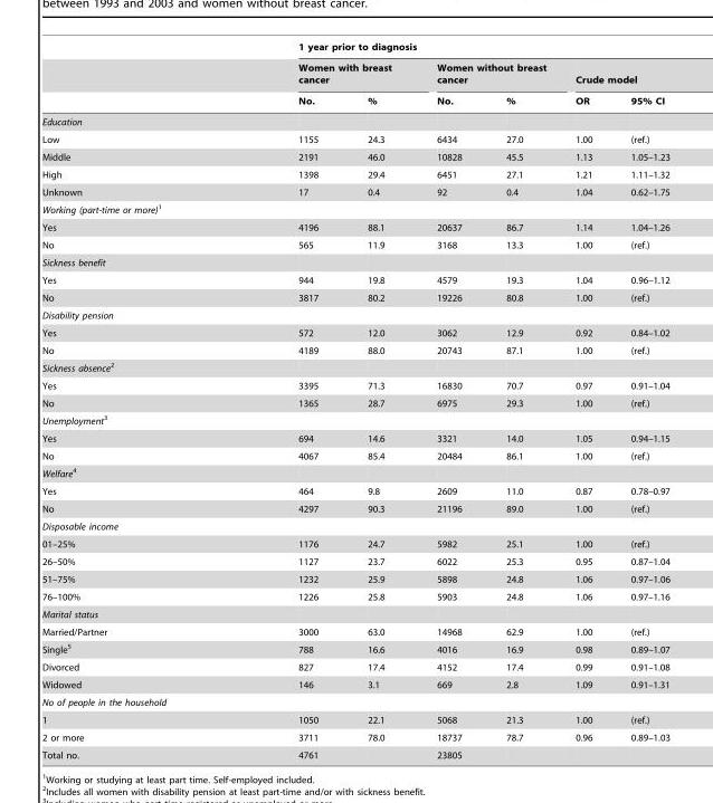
<table><thead><tr><td rowspan="3"></td><td colspan="6">1 year prior to diagnosis</td></tr><tr><td colspan="2">Women with breast cancer</td><td colspan="2">Women without breast cancer</td><td colspan="2">Crude model</td></tr><tr><td>No.</td><td>%</td><td>No.</td><td>%</td><td>OR</td><td>95% CI</td></tr></thead><tbody><tr><td colspan="7">Education</td></tr><tr><td>Low</td><td>1155</td><td>24.3</td><td>6434</td><td>27.0</td><td>1.00</td><td>(ref.)</td></tr><tr><td>Middle</td><td>2191</td><td>46.0</td><td>10828</td><td>45.5</td><td>1.13</td><td>1.05–1.23</td></tr><tr><td>High</td><td>1398</td><td>29.4</td><td>6451</td><td>27.1</td><td>1.21</td><td>1.11–1.32</td></tr><tr><td>Unknown</td><td>17</td><td>0.4</td><td>92</td><td>0.4</td><td>1.04</td><td>0.62–1.75</td></tr><tr><td colspan="7">Working (part-time or more)1</td></tr><tr><td>Yes</td><td>4196</td><td>88.1</td><td>20637</td><td>86.7</td><td>1.14</td><td>1.04–1.26</td></tr><tr><td>No</td><td>565</td><td>11.9</td><td>3168</td><td>13.3</td><td>1.00</td><td>(ref.)</td></tr><tr><td colspan="7">Sickness benefit</td></tr><tr><td>Yes</td><td>944</td><td>19.8</td><td>4579</td><td>19.3</td><td>1.04</td><td>0.96–1.12</td></tr><tr><td>No</td><td>3817</td><td>80.2</td><td>19226</td><td>80.8</td><td>1.00</td><td>(ref.)</td></tr><tr><td colspan="7">Disability pension</td></tr><tr><td>Yes</td><td>572</td><td>12.0</td><td>3062</td><td>12.9</td><td>0.92</td><td>0.84–1.02</td></tr><tr><td>No</td><td>4189</td><td>88.0</td><td>20743</td><td>87.1</td><td>1.00</td><td>(ref.)</td></tr><tr><td colspan="7">Sickness absence2</td></tr><tr><td>Yes</td><td>3395</td><td>71.3</td><td>16830</td><td>70.7</td><td>0.97</td><td>0.91–1.04</td></tr><tr><td>No</td><td>1365</td><td>28.7</td><td>6975</td><td>29.3</td><td>1.00</td><td>(ref.)</td></tr><tr><td colspan="7">Unemployment3</td></tr><tr><td>Yes</td><td>694</td><td>14.6</td><td>3321</td><td>14.0</td><td>1.05</td><td>0.94–1.15</td></tr><tr><td>No</td><td>4067</td><td>85.4</td><td>20484</td><td>86.1</td><td>1.00</td><td>(ref.)</td></tr><tr><td colspan="7">Welfare4</td></tr><tr><td>Yes</td><td>464</td><td>9.8</td><td>2609</td><td>11.0</td><td>0.87</td><td>0.78–0.97</td></tr><tr><td>No</td><td>4297</td><td>90.3</td><td>21196</td><td>89.0</td><td>1.00</td><td>(ref.)</td></tr><tr><td colspan="7">Disposable income</td></tr><tr><td>01–25%</td><td>1176</td><td>24.7</td><td>5982</td><td>25.1</td><td>1.00</td><td>(ref.)</td></tr><tr><td>26–50%</td><td>1127</td><td>23.7</td><td>6022</td><td>25.3</td><td>0.95</td><td>0.87–1.04</td></tr><tr><td>51–75%</td><td>1232</td><td>25.9</td><td>5898</td><td>24.8</td><td>1.06</td><td>0.97–1.06</td></tr><tr><td>76–100%</td><td>1226</td><td>25.8</td><td>5903</td><td>24.8</td><td>1.06</td><td>0.97–1.16</td></tr><tr><td colspan="7">Marital status</td></tr><tr><td>Married/Partner</td><td>3000</td><td>63.0</td><td>14968</td><td>62.9</td><td>1.00</td><td>(ref.)</td></tr><tr><td>Single<sup>5</sup></td><td>788</td><td>16.6</td><td>4016</td><td>16.9</td><td>0.98</td><td>0.89–1.07</td></tr><tr><td>Divorced</td><td>827</td><td>17.4</td><td>4152</td><td>17.4</td><td>0.99</td><td>0.91–1.08</td></tr><tr><td>Widowed</td><td>146</td><td>3.1</td><td>669</td><td>2.8</td><td>1.09</td><td>0.91–1.31</td></tr><tr><td colspan="7">No of people in the household</td></tr><tr><td>1</td><td>1050</td><td>22.1</td><td>5068</td><td>21.3</td><td>1.00</td><td>(ref.)</td></tr><tr><td>2 or more</td><td>3711</td><td>78.0</td><td>18737</td><td>78.7</td><td>0.96</td><td>0.89–1.03</td></tr><tr><td>Total no.</td><td>4761</td><td></td><td>23805</td><td></td><td></td><td></td></tr></tbody></table>